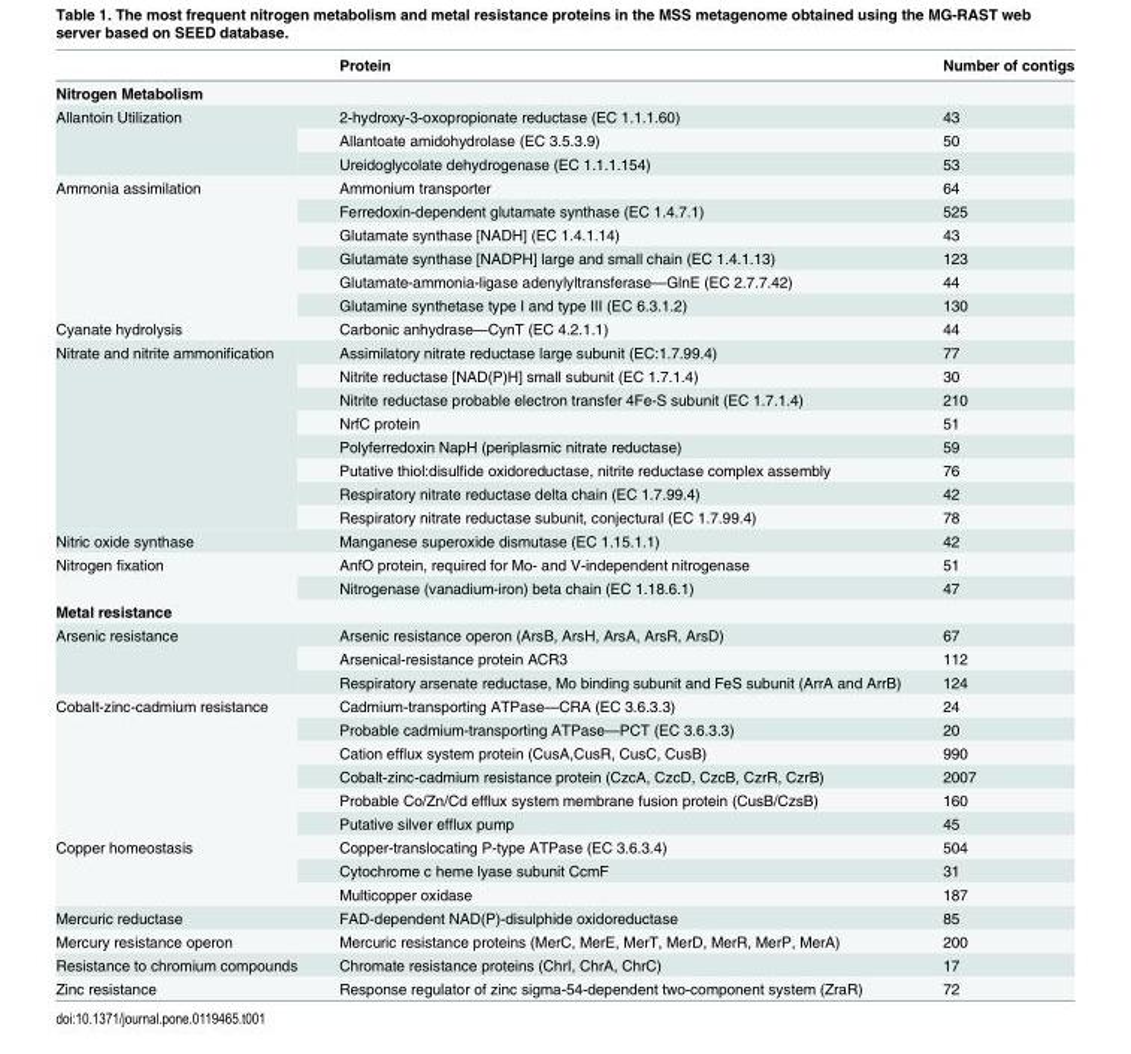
<table><thead><tr><td></td><td>Protein</td><td>Number of contigs</td></tr></thead><tbody><tr><td colspan="3">Nitrogen Metabolism</td></tr><tr><td rowspan="3">Allantoin Utilization</td><td>2-hydroxy-3-oxopropionate reductase (EC 1.1.1.60)</td><td>43</td></tr><tr><td>Allantoate amidohydrolase (EC 3.5.3.9)</td><td>50</td></tr><tr><td>Ureidoglycolate dehydrogenase (EC 1.1.1.154)</td><td>53</td></tr><tr><td rowspan="6">Ammonia assimilation</td><td>Ammonium transporter</td><td>64</td></tr><tr><td>Ferredoxin-dependent glutamate synthase (EC 1.4.7.1)</td><td>525</td></tr><tr><td>Glutamate synthase [NADH] (EC 1.4.1.14)</td><td>43</td></tr><tr><td>Glutamate synthase [NADPH] large and small chain (EC 1.4.1.13)</td><td>123</td></tr><tr><td>Glutamate-ammonia-ligase adenylyltransferase—GlnE (EC 2.7.7.42)</td><td>44</td></tr><tr><td>Glutamine synthetase type I and type III (EC 6.3.1.2)</td><td>130</td></tr><tr><td>Cyanate hydrolysis</td><td>Carbonic anhydrase—CynT (EC 4.2.1.1)</td><td>44</td></tr><tr><td rowspan="8">Nitrate and nitrite ammonification</td><td>Assimilatory nitrate reductase large subunit (EC:1.7.99.4)</td><td>77</td></tr><tr><td>Nitrite reductase [NAD(P)H] small subunit (EC 1.7.1.4)</td><td>30</td></tr><tr><td>Nitrite reductase probable electron transfer 4Fe-S subunit (EC 1.7.1.4)</td><td>210</td></tr><tr><td>NrfC protein</td><td>51</td></tr><tr><td>Polyferredoxin NapH (periplasmic nitrate reductase)</td><td>59</td></tr><tr><td>Putative thiol:disulfide oxidoreductase, nitrite reductase complex assembly</td><td>76</td></tr><tr><td>Respiratory nitrate reductase delta chain (EC 1.7.99.4)</td><td>42</td></tr><tr><td>Respiratory nitrate reductase subunit, conjectural (EC 1.7.99.4)</td><td>78</td></tr><tr><td>Nitric oxide synthase</td><td>Manganese superoxide dismutase (EC 1.15.1.1)</td><td>42</td></tr><tr><td rowspan="2">Nitrogen fixation</td><td>AnfO protein, required for Mo- and V-independent nitrogenase</td><td>51</td></tr><tr><td>Nitrogenase (vanadium-iron) beta chain (EC 1.18.6.1)</td><td>47</td></tr><tr><td colspan="3">Metal resistance</td></tr><tr><td rowspan="3">Arsenic resistance</td><td>Arsenic resistance operon (ArsB, ArsH, ArsA, ArsR, ArsD)</td><td>67</td></tr><tr><td>Arsenical-resistance protein ACR3</td><td>112</td></tr><tr><td>Respiratory arsenate reductase, Mo binding subunit and FeS subunit (ArrA and ArrB)</td><td>124</td></tr><tr><td rowspan="6">Cobalt-zinc-cadmium resistance</td><td>Cadmium-transporting ATPase—CRA (EC 3.6.3.3)</td><td>24</td></tr><tr><td>Probable cadmium-transporting ATPase—PCT (EC 3.6.3.3)</td><td>20</td></tr><tr><td>Cation efflux system protein (CusA,CusR, CusC, CusB)</td><td>990</td></tr><tr><td>Cobalt-zinc-cadmium resistance protein (CzcA, CzcD, CzcB, CzrR, CzrB)</td><td>2007</td></tr><tr><td>Probable Co/Zn/Cd efflux system membrane fusion protein (CusB/CzsB)</td><td>160</td></tr><tr><td>Putative silver efflux pump</td><td>45</td></tr><tr><td rowspan="3">Copper homeostasis</td><td>Copper-translocating P-type ATPase (EC 3.6.3.4)</td><td>504</td></tr><tr><td>Cytochrome c heme lyase subunit CcmF</td><td>31</td></tr><tr><td>Multicopper oxidase</td><td>187</td></tr><tr><td>Mercuric reductase</td><td>FAD-dependent NAD(P)-disulphide oxidoreductase</td><td>85</td></tr><tr><td>Mercury resistance operon</td><td>Mercuric resistance proteins (MerC, MerE, MerT, MerD, MerR, MerP, MerA)</td><td>200</td></tr><tr><td>Resistance to chromium compounds</td><td>Chromate resistance proteins (ChrI, ChrA, ChrC)</td><td>17</td></tr><tr><td>Zinc resistance</td><td>Response regulator of zinc sigma-54-dependent two-component system (ZraR)</td><td>72</td></tr></tbody></table>